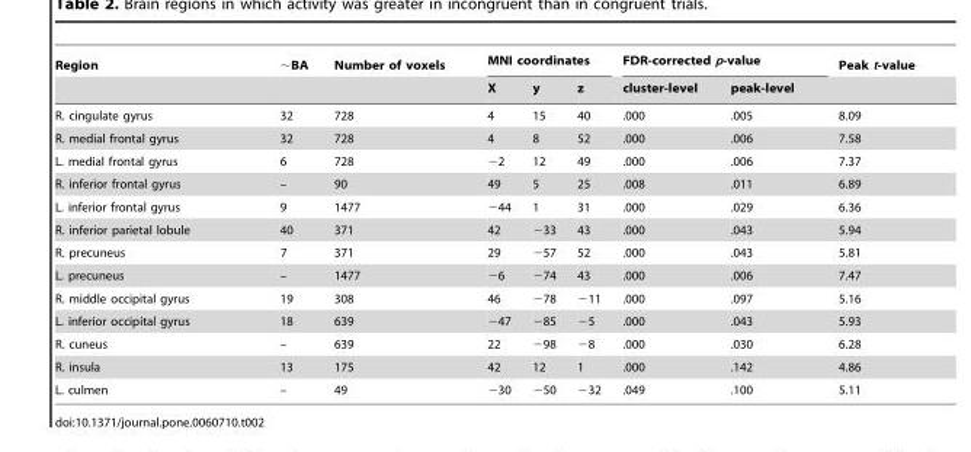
<table><thead><tr><td rowspan="2">Region</td><td rowspan="2">∼BA</td><td rowspan="2">Number of voxels</td><td colspan="3">MNI coordinates</td><td colspan="2">FDR-corrected p-value</td><td rowspan="2">Peak t-value</td></tr><tr><td>X</td><td>y</td><td>z</td><td>cluster-level</td><td>peak-level</td></tr></thead><tbody><tr><td>R. cingulate gyrus</td><td>32</td><td>728</td><td>4</td><td>15</td><td>40</td><td>.000</td><td>.005</td><td>8.09</td></tr><tr><td>R. medial frontal gyrus</td><td>32</td><td>728</td><td>4</td><td>8</td><td>52</td><td>.000</td><td>.006</td><td>7.58</td></tr><tr><td>L. medial frontal gyrus</td><td>6</td><td>728</td><td>−2</td><td>12</td><td>49</td><td>.000</td><td>.006</td><td>7.37</td></tr><tr><td>R. inferior frontal gyrus</td><td>–</td><td>90</td><td>49</td><td>5</td><td>25</td><td>.008</td><td>.011</td><td>6.89</td></tr><tr><td>L. inferior frontal gyrus</td><td>9</td><td>1477</td><td>−44</td><td>1</td><td>31</td><td>.000</td><td>.029</td><td>6.36</td></tr><tr><td>R. inferior parietal lobule</td><td>40</td><td>371</td><td>42</td><td>−33</td><td>43</td><td>.000</td><td>.043</td><td>5.94</td></tr><tr><td>R. precuneus</td><td>7</td><td>371</td><td>29</td><td>−57</td><td>52</td><td>.000</td><td>.043</td><td>5.81</td></tr><tr><td>L. precuneus</td><td>–</td><td>1477</td><td>−6</td><td>−74</td><td>43</td><td>.000</td><td>.006</td><td>7.47</td></tr><tr><td>R. middle occipital gyrus</td><td>19</td><td>308</td><td>46</td><td>−78</td><td>−11</td><td>.000</td><td>.097</td><td>5.16</td></tr><tr><td>L. inferior occipital gyrus</td><td>18</td><td>639</td><td>−47</td><td>−85</td><td>−5</td><td>.000</td><td>.043</td><td>5.93</td></tr><tr><td>R. cuneus</td><td>–</td><td>639</td><td>22</td><td>−98</td><td>−8</td><td>.000</td><td>.030</td><td>6.28</td></tr><tr><td>R. insula</td><td>13</td><td>175</td><td>42</td><td>12</td><td>1</td><td>.000</td><td>.142</td><td>4.86</td></tr><tr><td>L. culmen</td><td>–</td><td>49</td><td>−30</td><td>−50</td><td>−32</td><td>.049</td><td>.100</td><td>5.11</td></tr></tbody></table>